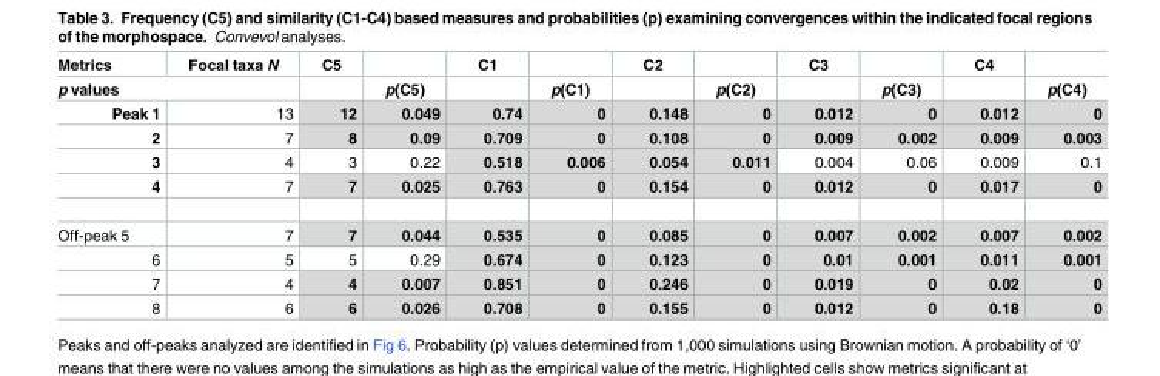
<table><thead><tr><td>Metrics</td><td>Focal taxa N</td><td rowspan="2">C5</td><td rowspan="2">p(C5)</td><td rowspan="2">C1</td><td rowspan="2">p(C1)</td><td rowspan="2">C2</td><td rowspan="2">p(C2)</td><td rowspan="2">C3</td><td rowspan="2">p(C3)</td><td rowspan="2">C4</td><td rowspan="2">p(C4)</td></tr><tr><td colspan="2">p values</td></tr></thead><tbody><tr><td>Peak 1</td><td>13</td><td>12</td><td>0.049</td><td>0.74</td><td>0</td><td>0.148</td><td>0</td><td>0.012</td><td>0</td><td>0.012</td><td>0</td></tr><tr><td>2</td><td>7</td><td>8</td><td>0.09</td><td>0.709</td><td>0</td><td>0.108</td><td>0</td><td>0.009</td><td>0.002</td><td>0.009</td><td>0.003</td></tr><tr><td>3</td><td>4</td><td>3</td><td>0.22</td><td>0.518</td><td>0.006</td><td>0.054</td><td>0.011</td><td>0.004</td><td>0.06</td><td>0.009</td><td>0.1</td></tr><tr><td>4</td><td>7</td><td>7</td><td>0.025</td><td>0.763</td><td>0</td><td>0.154</td><td>0</td><td>0.012</td><td>0</td><td>0.017</td><td>0</td></tr><tr><td>Off-peak 5</td><td>7</td><td>7</td><td>0.044</td><td>0.535</td><td>0</td><td>0.085</td><td>0</td><td>0.007</td><td>0.002</td><td>0.007</td><td>0.002</td></tr><tr><td>6</td><td>5</td><td>5</td><td>0.29</td><td>0.674</td><td>0</td><td>0.123</td><td>0</td><td>0.01</td><td>0.001</td><td>0.011</td><td>0.001</td></tr><tr><td>7</td><td>4</td><td>4</td><td>0.007</td><td>0.851</td><td>0</td><td>0.246</td><td>0</td><td>0.019</td><td>0</td><td>0.02</td><td>0</td></tr><tr><td>8</td><td>6</td><td>6</td><td>0.026</td><td>0.708</td><td>0</td><td>0.155</td><td>0</td><td>0.012</td><td>0</td><td>0.18</td><td>0</td></tr></tbody></table>